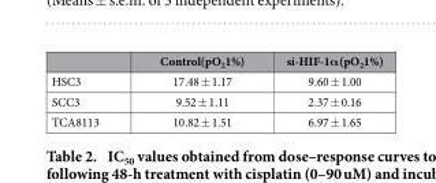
<table><thead><tr><td></td><td>Control(pO<sub>2</sub>1%)</td><td>si-HIF-1α(pO<sub>2</sub>1%)</td></tr></thead><tbody><tr><td>HSC3</td><td>17.48 ± 1.17</td><td>9.60 ± 1.00</td></tr><tr><td>SCC3</td><td>9.52 ± 1.11</td><td>2.37 ± 0.16</td></tr><tr><td>TCA8113</td><td>10.82 ± 1.51</td><td>6.97 ± 1.65</td></tr></tbody></table>